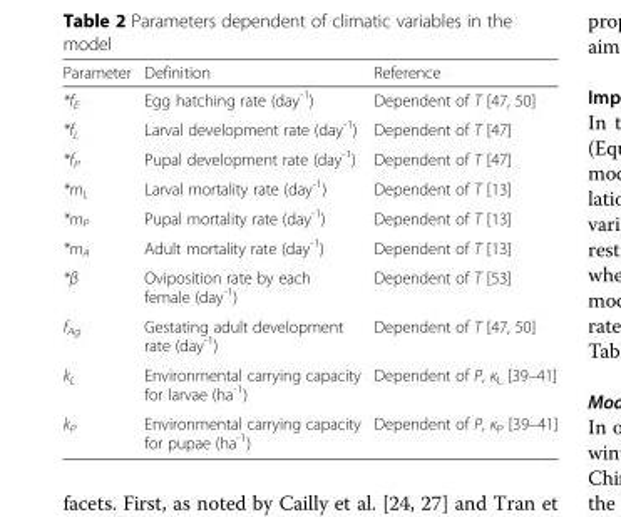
<table><thead><tr><td>Parameter</td><td>Definition</td><td>Reference</td></tr></thead><tbody><tr><td>*f<sub>E</sub></td><td>Egg hatching rate (day<sup>-1</sup>)</td><td>Dependent of T [47, 50]</td></tr><tr><td>*f<sub>L</sub></td><td>Larval development rate (day<sup>-1</sup>)</td><td>Dependent of T [47]</td></tr><tr><td>*f<sub>P</sub></td><td>Pupal development rate (day<sup>-1</sup>)</td><td>Dependent of T [47]</td></tr><tr><td>*m<sub>L</sub></td><td>Larval mortality rate (day<sup>-1</sup>)</td><td>Dependent of T [13]</td></tr><tr><td>*m<sub>P</sub></td><td>Pupal mortality rate (day<sup>-1</sup>)</td><td>Dependent of T [13]</td></tr><tr><td>*m<sub>A</sub></td><td>Adult mortality rate (day<sup>-1</sup>)</td><td>Dependent of T [13]</td></tr><tr><td>*β</td><td>Oviposition rate by each female (day<sup>-1</sup>)</td><td>Dependent of T [53]</td></tr><tr><td>f<sub>Ag</sub></td><td>Gestating adult development rate (day<sup>-1</sup>)</td><td>Dependent of T [47, 50]</td></tr><tr><td>k<sub>L</sub></td><td>Environmental carrying capacity for larvae (ha<sup>-1</sup>)</td><td>Dependent of P, κ<sub>L</sub> [39–41]</td></tr><tr><td>k<sub>P</sub></td><td>Environmental carrying capacity for pupae (ha<sup>-1</sup>)</td><td>Dependent of P, κ<sub>P</sub> [39–41]</td></tr></tbody></table>